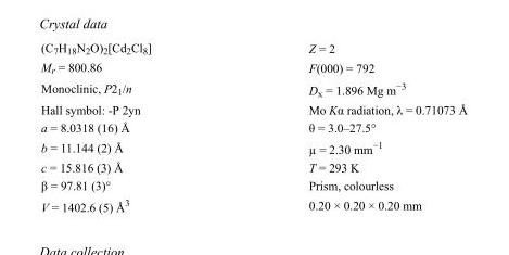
<table><tbody><tr><td>(C<sub>7</sub>H<sub>18</sub>N<sub>2</sub>O)<sub>2</sub>[Cd<sub>2</sub>Cl<sub>8</sub>]</td><td>Z = 2</td></tr><tr><td>M<sub>r</sub> = 800.86</td><td>F(000) = 792</td></tr><tr><td>Monoclinic, P2<sub>1</sub>/n</td><td>D<sub>x</sub> = 1.896 Mg m<sup>−3</sup></td></tr><tr><td>Hall symbol: -P 2yn</td><td>Mo Kα radiation, λ = 0.71073 Å</td></tr><tr><td>a = 8.0318 (16) Å</td><td>θ = 3.0–27.5°</td></tr><tr><td>b = 11.144 (2) Å</td><td>µ = 2.30 mm<sup>−1</sup></td></tr><tr><td>c = 15.816 (3) Å</td><td>T = 293 K</td></tr><tr><td>β = 97.81 (3)°</td><td>Prism, colourless</td></tr><tr><td>V = 1402.6 (5) Å<sup>3</sup></td><td>0.20 × 0.20 × 0.20 mm</td></tr></tbody></table>